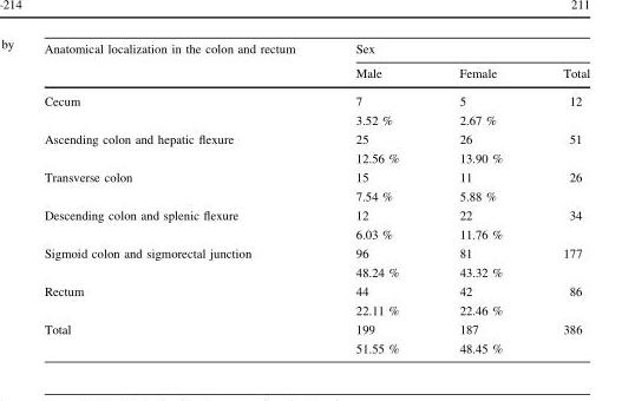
<table><thead><tr><td rowspan="2">Anatomical localization in the colon and rectum</td><td colspan="3">Sex</td></tr><tr><td>Male</td><td>Female</td><td>Total</td></tr></thead><tbody><tr><td rowspan="2">Cecum</td><td>7</td><td>5</td><td rowspan="2">12</td></tr><tr><td>3.52 %</td><td>2.67 %</td></tr><tr><td rowspan="2">Ascending colon and hepatic flexure</td><td>25</td><td>26</td><td rowspan="2">51</td></tr><tr><td>12.56 %</td><td>13.90 %</td></tr><tr><td rowspan="2">Transverse colon</td><td>15</td><td>11</td><td rowspan="2">26</td></tr><tr><td>7.54 %</td><td>5.88 %</td></tr><tr><td rowspan="2">Descending colon and splenic flexure</td><td>12</td><td>22</td><td rowspan="2">34</td></tr><tr><td>6.03 %</td><td>11.76 %</td></tr><tr><td rowspan="2">Sigmoid colon and sigmorectal junction</td><td>96</td><td>81</td><td rowspan="2">177</td></tr><tr><td>48.24 %</td><td>43.32 %</td></tr><tr><td rowspan="2">Rectum</td><td>44</td><td>42</td><td rowspan="2">86</td></tr><tr><td>22.11 %</td><td>22.46 %</td></tr><tr><td rowspan="2">Total</td><td>199</td><td>187</td><td rowspan="2">386</td></tr><tr><td>51.55 %</td><td>48.45 %</td></tr></tbody></table>